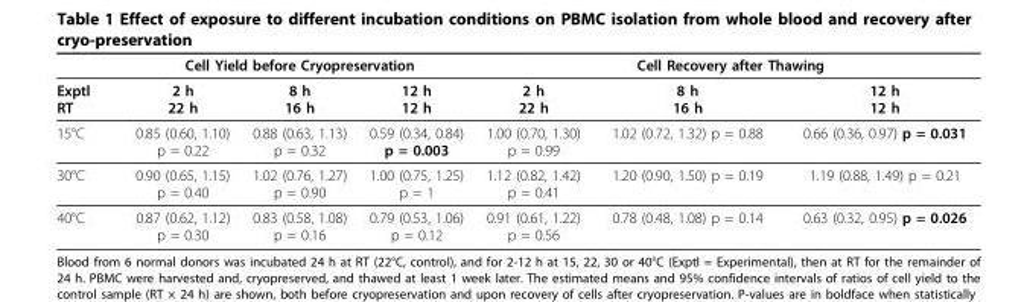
<table><thead><tr><td rowspan="2">Exptl RT</td><td colspan="3">Cell Yield before Cryopreservation</td><td colspan="3">Cell Recovery after Thawing</td></tr><tr><td>2 h 22 h</td><td>8 h 16 h</td><td>12 h 12 h</td><td>2 h 22 h</td><td>8 h 16 h</td><td>12 h 12 h</td></tr></thead><tbody><tr><td>15°C</td><td>0.85 (0.60, 1.10) p = 0.22</td><td>0.88 (0.63, 1.13) p = 0.32</td><td>0.59 (0.34, 0.84) p = 0.003</td><td>1.00 (0.70, 1.30) p = 0.99</td><td>1.02 (0.72, 1.32) p = 0.88</td><td>0.66 (0.36, 0.97) p = 0.031</td></tr><tr><td>30°C</td><td>0.90 (0.65, 1.15) p = 0.40</td><td>1.02 (0.76, 1.27) p = 0.90</td><td>1.00 (0.75, 1.25) p = 1</td><td>1.12 (0.82, 1.42) p = 0.41</td><td>1.20 (0.90, 1.50) p = 0.19</td><td>1.19 (0.88, 1.49) p = 0.21</td></tr><tr><td>40°C</td><td>0.87 (0.62, 1.12) p = 0.30</td><td>0.83 (0.58, 1.08) p = 0.16</td><td>0.79 (0.53, 1.06) p = 0.12</td><td>0.91 (0.61, 1.22) p = 0.56</td><td>0.78 (0.48, 1.08) p = 0.14</td><td>0.63 (0.32, 0.95) p = 0.026</td></tr></tbody></table>